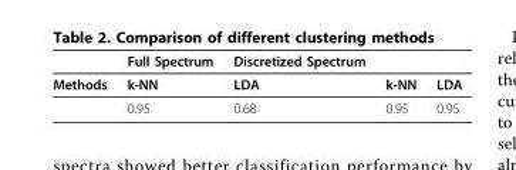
<table><thead><tr><td></td><td>Full Spectrum</td><td>Discretized Spectrum</td><td></td><td></td></tr></thead><tbody><tr><td rowspan="2">Methods</td><td>k-NN</td><td>LDA</td><td>k-NN</td><td>LDA</td></tr><tr><td>0.95</td><td>0.68</td><td>0.95</td><td>0.95</td></tr></tbody></table>